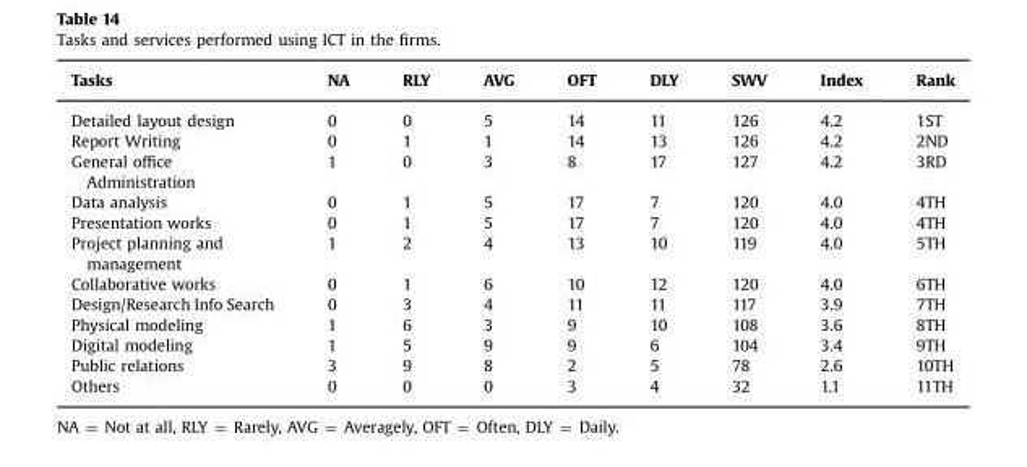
<table><thead><tr><td>Tasks</td><td>NA</td><td>RLY</td><td>AVG</td><td>OFT</td><td>DLY</td><td>SWV</td><td>Index</td><td>Rank</td></tr></thead><tbody><tr><td>Detailed layout design</td><td>0</td><td>0</td><td>5</td><td>14</td><td>11</td><td>126</td><td>4.2</td><td>1ST</td></tr><tr><td>Report Writing</td><td>0</td><td>1</td><td>1</td><td>14</td><td>13</td><td>126</td><td>4.2</td><td>2ND</td></tr><tr><td>General office Administration</td><td>1</td><td>0</td><td>3</td><td>8</td><td>17</td><td>127</td><td>4.2</td><td>3RD</td></tr><tr><td>Data analysis</td><td>0</td><td>1</td><td>5</td><td>17</td><td>7</td><td>120</td><td>4.0</td><td>4TH</td></tr><tr><td>Presentation works</td><td>0</td><td>1</td><td>5</td><td>17</td><td>7</td><td>120</td><td>4.0</td><td>4TH</td></tr><tr><td>Project planning and management</td><td>1</td><td>2</td><td>4</td><td>13</td><td>10</td><td>119</td><td>4.0</td><td>5TH</td></tr><tr><td>Collaborative works</td><td>0</td><td>1</td><td>6</td><td>10</td><td>12</td><td>120</td><td>4.0</td><td>6TH</td></tr><tr><td>Design/Research Info Search</td><td>0</td><td>3</td><td>4</td><td>11</td><td>11</td><td>117</td><td>3.9</td><td>7TH</td></tr><tr><td>Physical modeling</td><td>1</td><td>6</td><td>3</td><td>9</td><td>10</td><td>108</td><td>3.6</td><td>8TH</td></tr><tr><td>Digital modeling</td><td>1</td><td>5</td><td>9</td><td>9</td><td>6</td><td>104</td><td>3.4</td><td>9TH</td></tr><tr><td>Public relations</td><td>3</td><td>9</td><td>8</td><td>2</td><td>5</td><td>78</td><td>2.6</td><td>10TH</td></tr><tr><td>Others</td><td>0</td><td>0</td><td>0</td><td>3</td><td>4</td><td>32</td><td>1.1</td><td>11TH</td></tr></tbody></table>